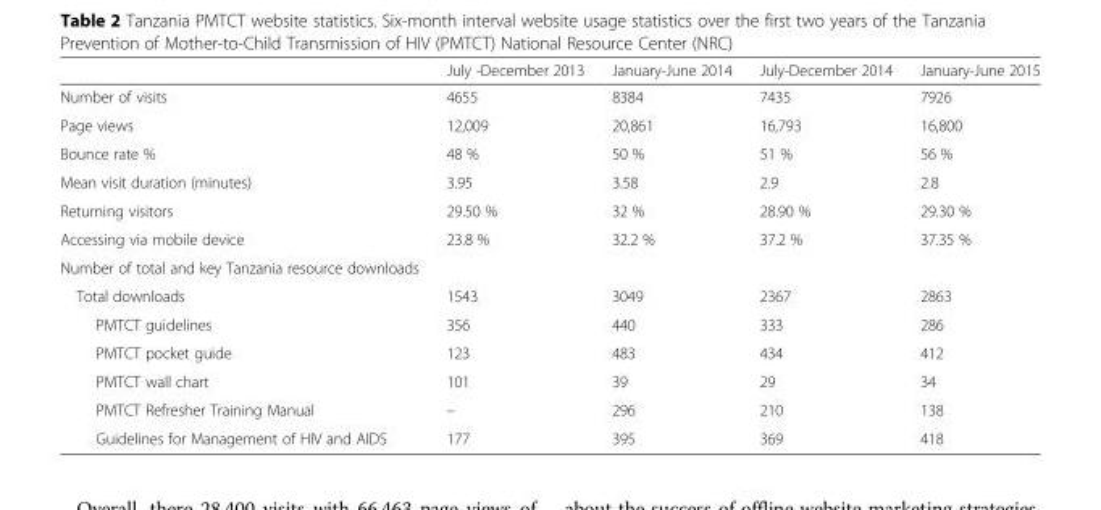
<table><thead><tr><td></td><td>July -December 2013</td><td>January-June 2014</td><td>July-December 2014</td><td>January-June 2015</td></tr></thead><tbody><tr><td>Number of visits</td><td>4655</td><td>8384</td><td>7435</td><td>7926</td></tr><tr><td>Page views</td><td>12,009</td><td>20,861</td><td>16,793</td><td>16,800</td></tr><tr><td>Bounce rate %</td><td>48 %</td><td>50 %</td><td>51 %</td><td>56 %</td></tr><tr><td>Mean visit duration (minutes)</td><td>3.95</td><td>3.58</td><td>2.9</td><td>2.8</td></tr><tr><td>Returning visitors</td><td>29.50 %</td><td>32 %</td><td>28.90 %</td><td>29.30 %</td></tr><tr><td>Accessing via mobile device</td><td>23.8 %</td><td>32.2 %</td><td>37.2 %</td><td>37.35 %</td></tr><tr><td colspan="5">Number of total and key Tanzania resource downloads</td></tr><tr><td>Total downloads</td><td>1543</td><td>3049</td><td>2367</td><td>2863</td></tr><tr><td>PMTCT guidelines</td><td>356</td><td>440</td><td>333</td><td>286</td></tr><tr><td>PMTCT pocket guide</td><td>123</td><td>483</td><td>434</td><td>412</td></tr><tr><td>PMTCT wall chart</td><td>101</td><td>39</td><td>29</td><td>34</td></tr><tr><td>PMTCT Refresher Training Manual</td><td>–</td><td>296</td><td>210</td><td>138</td></tr><tr><td>Guidelines for Management of HIV and AIDS</td><td>177</td><td>395</td><td>369</td><td>418</td></tr></tbody></table>